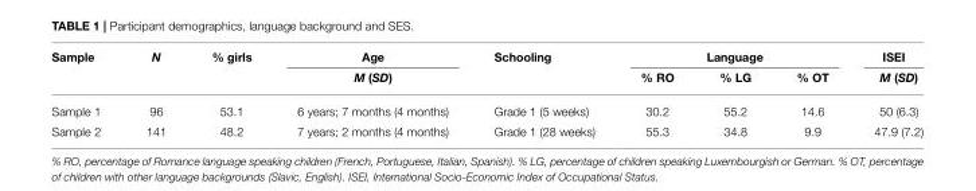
<table><thead><tr><td rowspan="2">Sample</td><td rowspan="2">N</td><td rowspan="2">% girls</td><td rowspan="2">Age M (SD)</td><td rowspan="2">Schooling</td><td colspan="3">Language</td><td rowspan="2">ISEI M (SD)</td></tr><tr><td>% RO</td><td>% LG</td><td>% OT</td></tr></thead><tbody><tr><td>Sample 1</td><td>96</td><td>53.1</td><td>6 years; 7 months (4 months)</td><td>Grade 1 (5 weeks)</td><td>30.2</td><td>55.2</td><td>14.6</td><td>50 (6.3)</td></tr><tr><td>Sample 2</td><td>141</td><td>48.2</td><td>7 years; 2 months (4 months)</td><td>Grade 1 (28 weeks)</td><td>55.3</td><td>34.8</td><td>9.9</td><td>47.9 (7.2)</td></tr></tbody></table>